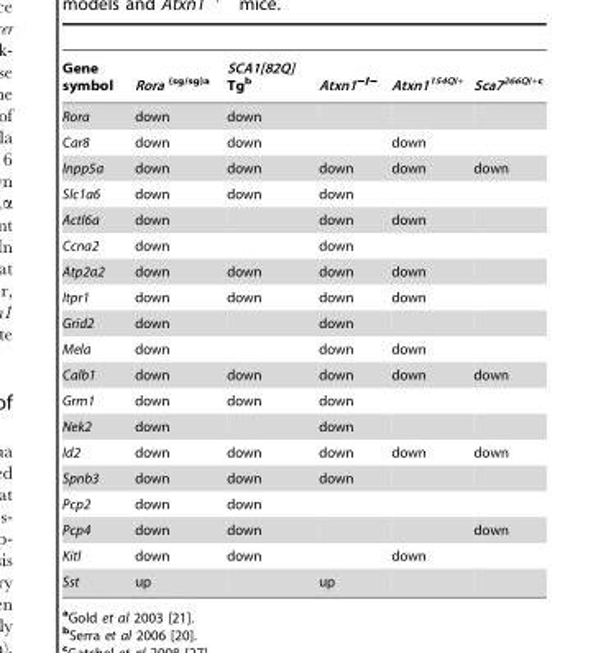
<table><thead><tr><td>Gene symbol</td><td>Rora <sup>(sg/sg)</sup>a</td><td>SCA1[82Q] Tg<sup>b</sup></td><td>Atxn1<sup>−/−</sup></td><td>Atxn1<sup>154Q/+</sup></td><td>Sca7<sup>266Q/+</sup>c</td></tr></thead><tbody><tr><td>Rora</td><td>down</td><td>down</td><td></td><td></td><td></td></tr><tr><td>Car8</td><td>down</td><td>down</td><td></td><td>down</td><td></td></tr><tr><td>Inpp5a</td><td>down</td><td>down</td><td>down</td><td>down</td><td>down</td></tr><tr><td>Slc1a6</td><td>down</td><td>down</td><td>down</td><td></td><td></td></tr><tr><td>Actl6a</td><td>down</td><td></td><td>down</td><td>down</td><td></td></tr><tr><td>Ccna2</td><td>down</td><td></td><td>down</td><td></td><td></td></tr><tr><td>Atp2a2</td><td>down</td><td>down</td><td>down</td><td>down</td><td></td></tr><tr><td>Itpr1</td><td>down</td><td>down</td><td>down</td><td>down</td><td></td></tr><tr><td>Grid2</td><td>down</td><td></td><td>down</td><td></td><td></td></tr><tr><td>Mela</td><td>down</td><td></td><td>down</td><td>down</td><td></td></tr><tr><td>Calb1</td><td>down</td><td>down</td><td>down</td><td>down</td><td>down</td></tr><tr><td>Grm1</td><td>down</td><td>down</td><td>down</td><td></td><td></td></tr><tr><td>Nek2</td><td>down</td><td></td><td>down</td><td></td><td></td></tr><tr><td>Id2</td><td>down</td><td>down</td><td>down</td><td>down</td><td>down</td></tr><tr><td>Spnb3</td><td>down</td><td>down</td><td>down</td><td></td><td></td></tr><tr><td>Pcp2</td><td>down</td><td>down</td><td></td><td></td><td></td></tr><tr><td>Pcp4</td><td>down</td><td>down</td><td></td><td></td><td>down</td></tr><tr><td>Kitl</td><td>down</td><td>down</td><td></td><td>down</td><td></td></tr><tr><td>Sst</td><td>up</td><td></td><td>up</td><td></td><td></td></tr></tbody></table>